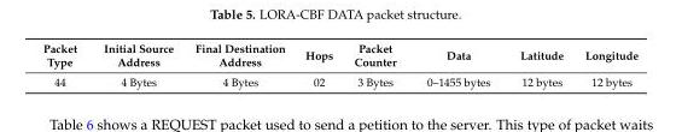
<table><thead><tr><td>Packet Type</td><td>Initial Source Address</td><td>Final Destination Address</td><td>Hops</td><td>Packet Counter</td><td>Data</td><td>Latitude</td><td>Longitude</td></tr></thead><tbody><tr><td>44</td><td>4 Bytes</td><td>4 Bytes</td><td>02</td><td>3 Bytes</td><td>0–1455 bytes</td><td>12 bytes</td><td>12 bytes</td></tr></tbody></table>